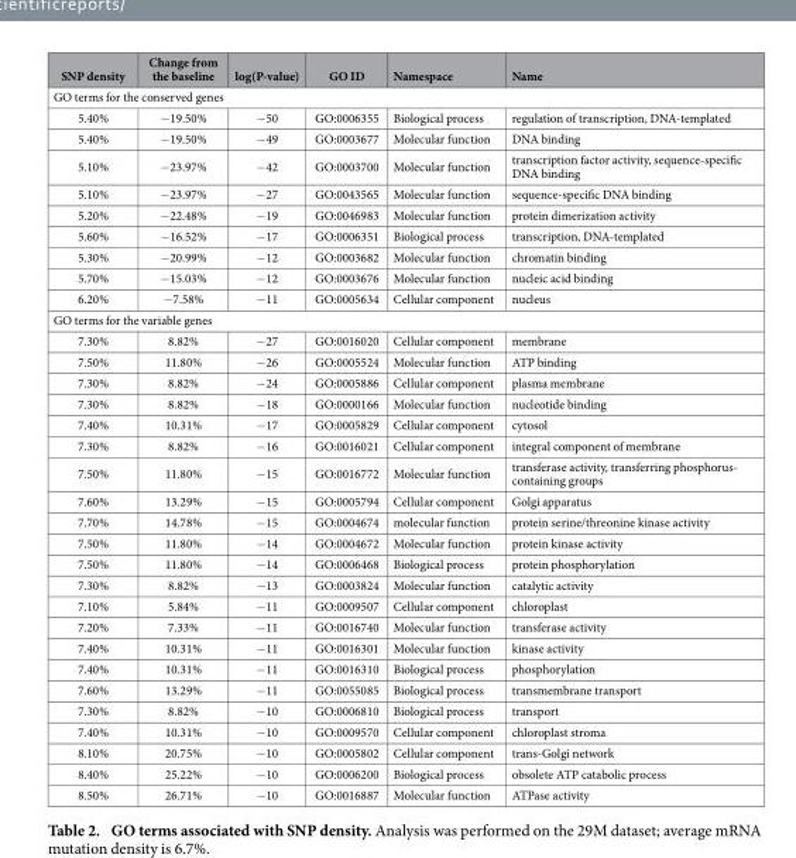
<table><thead><tr><td>SNP density</td><td>Change from the baseline</td><td>log(P-value)</td><td>GO ID</td><td>Namespace</td><td>Name</td></tr></thead><tbody><tr><td colspan="6">GO terms for the conserved genes</td></tr><tr><td>5.40%</td><td>− 19.50%</td><td>− 50</td><td>GO:0006355</td><td>Biological process</td><td>regulation of transcription, DNA-templated</td></tr><tr><td>5.40%</td><td>− 19.50%</td><td>− 49</td><td>GO:0003677</td><td>Molecular function</td><td>DNA binding</td></tr><tr><td>5.10%</td><td>− 23.97%</td><td>− 42</td><td>GO:0003700</td><td>Molecular function</td><td>transcription factor activity, sequence-specific DNA binding</td></tr><tr><td>5.10%</td><td>− 23.97%</td><td>− 27</td><td>GO:0043565</td><td>Molecular function</td><td>sequence-specific DNA binding</td></tr><tr><td>5.20%</td><td>− 22.48%</td><td>− 19</td><td>GO:0046983</td><td>Molecular function</td><td>protein dimerization activity</td></tr><tr><td>5.60%</td><td>− 16.52%</td><td>− 17</td><td>GO:0006351</td><td>Biological process</td><td>transcription, DNA-templated</td></tr><tr><td>5.30%</td><td>− 20.99%</td><td>− 12</td><td>GO:0003682</td><td>Molecular function</td><td>chromatin binding</td></tr><tr><td>5.70%</td><td>− 15.03%</td><td>− 12</td><td>GO:0003676</td><td>Molecular function</td><td>nucleic acid binding</td></tr><tr><td>6.20%</td><td>− 7.58%</td><td>− 11</td><td>GO:0005634</td><td>Cellular component</td><td>nucleus</td></tr><tr><td colspan="6">GO terms for the variable genes</td></tr><tr><td>7.30%</td><td>8.82%</td><td>− 27</td><td>GO:0016020</td><td>Cellular component</td><td>membrane</td></tr><tr><td>7.50%</td><td>11.80%</td><td>− 26</td><td>GO:0005524</td><td>Molecular function</td><td>ATP binding</td></tr><tr><td>7.30%</td><td>8.82%</td><td>− 24</td><td>GO:0005886</td><td>Cellular component</td><td>plasma membrane</td></tr><tr><td>7.30%</td><td>8.82%</td><td>− 18</td><td>GO:0000166</td><td>Molecular function</td><td>nucleotide binding</td></tr><tr><td>7.40%</td><td>10.31%</td><td>− 17</td><td>GO:0005829</td><td>Cellular component</td><td>cytosol</td></tr><tr><td>7.30%</td><td>8.82%</td><td>− 16</td><td>GO:0016021</td><td>Cellular component</td><td>integral component of membrane</td></tr><tr><td>7.50%</td><td>11.80%</td><td>− 15</td><td>GO:0016772</td><td>Molecular function</td><td>transferase activity, transferring phosphorus- containing groups</td></tr><tr><td>7.60%</td><td>13.29%</td><td>− 15</td><td>GO:0005794</td><td>Cellular component</td><td>Golgi apparatus</td></tr><tr><td>7.70%</td><td>14.78%</td><td>− 15</td><td>GO:0004674</td><td>molecular function</td><td>protein serine/threonine kinase activity</td></tr><tr><td>7.50%</td><td>11.80%</td><td>− 14</td><td>GO:0004672</td><td>Molecular function</td><td>protein kinase activity</td></tr><tr><td>7.50%</td><td>11.80%</td><td>− 14</td><td>GO:0006468</td><td>Biological process</td><td>protein phosphorylation</td></tr><tr><td>7.30%</td><td>8.82%</td><td>− 13</td><td>GO:0003824</td><td>Molecular function</td><td>catalytic activity</td></tr><tr><td>7.10%</td><td>5.84%</td><td>− 11</td><td>GO:0009507</td><td>Cellular component</td><td>chloroplast</td></tr><tr><td>7.20%</td><td>7.33%</td><td>− 11</td><td>GO:0016740</td><td>Molecular function</td><td>transferase activity</td></tr><tr><td>7.40%</td><td>10.31%</td><td>− 11</td><td>GO:0016301</td><td>Molecular function</td><td>kinase activity</td></tr><tr><td>7.40%</td><td>10.31%</td><td>− 11</td><td>GO:0016310</td><td>Biological process</td><td>phosphorylation</td></tr><tr><td>7.60%</td><td>13.29%</td><td>− 11</td><td>GO:0055085</td><td>Biological process</td><td>transmembrane transport</td></tr><tr><td>7.30%</td><td>8.82%</td><td>− 10</td><td>GO:0006810</td><td>Biological process</td><td>transport</td></tr><tr><td>7.40%</td><td>10.31%</td><td>− 10</td><td>GO:0009570</td><td>Cellular component</td><td>chloroplast stroma</td></tr><tr><td>8.10%</td><td>20.75%</td><td>− 10</td><td>GO:0005802</td><td>Cellular component</td><td>trans-Golgi network</td></tr><tr><td>8.40%</td><td>25.22%</td><td>− 10</td><td>GO:0006200</td><td>Biological process</td><td>obsolete ATP catabolic process</td></tr><tr><td>8.50%</td><td>26.71%</td><td>− 10</td><td>GO:0016887</td><td>Molecular function</td><td>ATPase activity</td></tr></tbody></table>